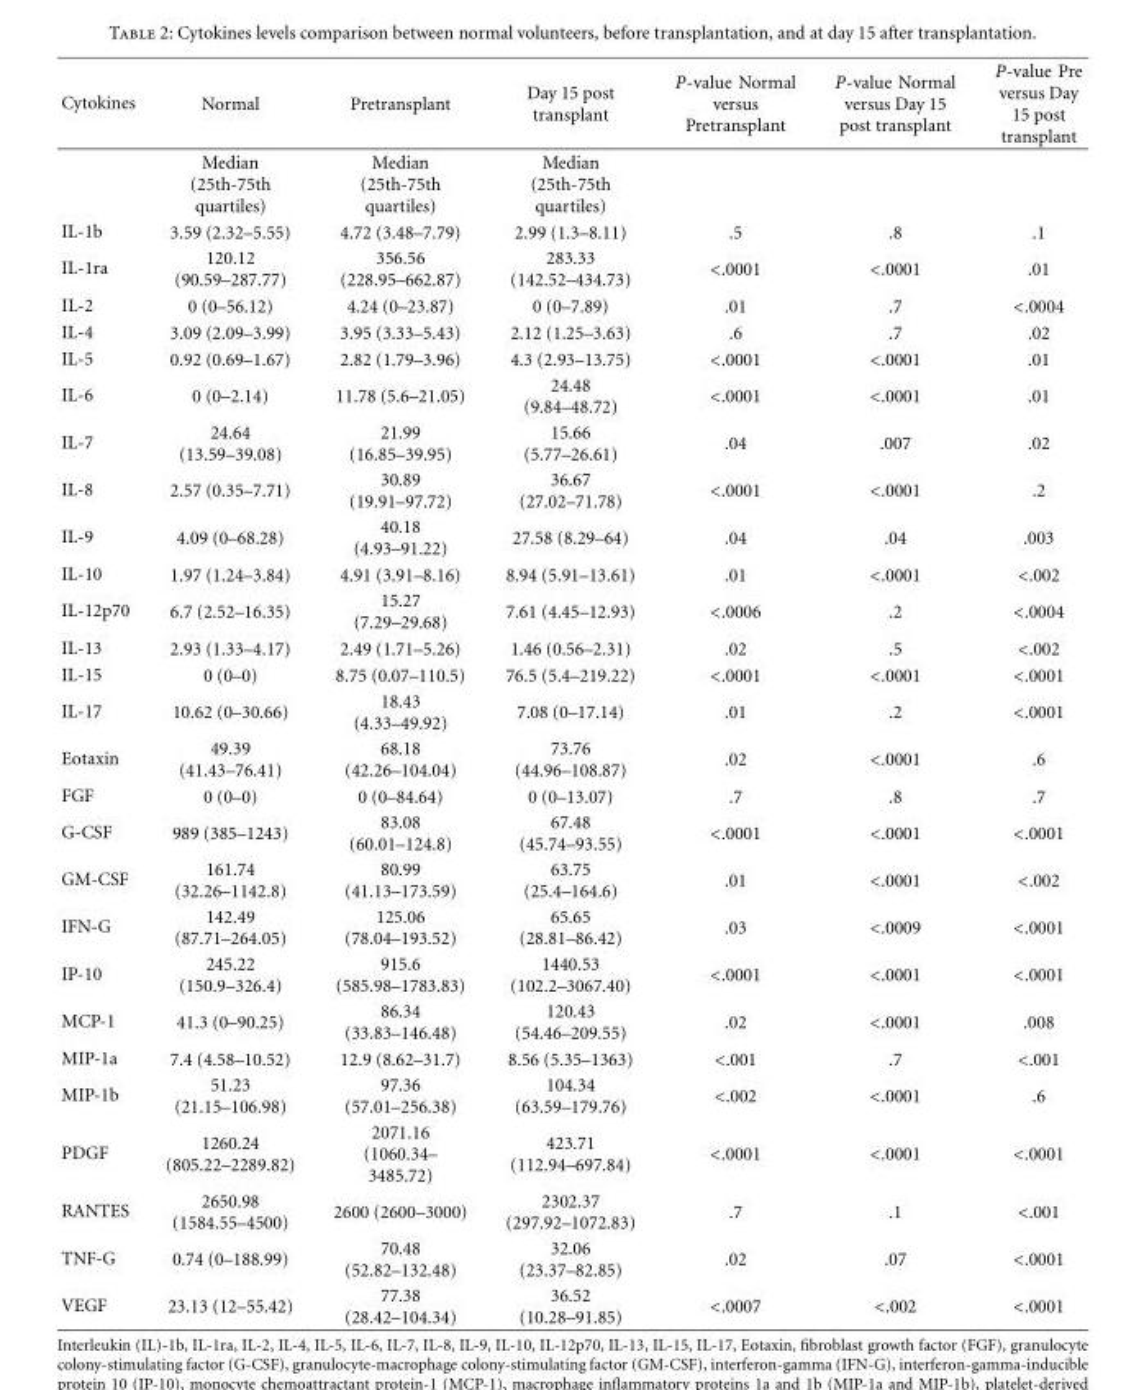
<table><thead><tr><td>Cytokines</td><td>Normal</td><td>Pretransplant</td><td>Day 15 post transplant</td><td>P-value Normal versus Pretransplant</td><td>P-value Normal versus Day 15 post transplant</td><td>P-value Pre versus Day 15 post transplant</td></tr></thead><tbody><tr><td></td><td>Median (25th-75th quartiles)</td><td>Median (25th-75th quartiles)</td><td>Median (25th-75th quartiles)</td><td></td><td></td><td></td></tr><tr><td>IL-1b</td><td>3.59 (2.32–5.55)</td><td>4.72 (3.48–7.79)</td><td>2.99 (1.3–8.11)</td><td>.5</td><td>.8</td><td>.1</td></tr><tr><td>IL-1ra</td><td>120.12 (90.59–287.77)</td><td>356.56 (228.95–662.87)</td><td>283.33 (142.52–434.73)</td><td>&lt;.0001</td><td>&lt;.0001</td><td>.01</td></tr><tr><td>IL-2</td><td>0 (0–56.12)</td><td>4.24 (0–23.87)</td><td>0 (0–7.89)</td><td>.01</td><td>.7</td><td>&lt;.0004</td></tr><tr><td>IL-4</td><td>3.09 (2.09–3.99)</td><td>3.95 (3.33–5.43)</td><td>2.12 (1.25–3.63)</td><td>.6</td><td>.7</td><td>.02</td></tr><tr><td>IL-5</td><td>0.92 (0.69–1.67)</td><td>2.82 (1.79–3.96)</td><td>4.3 (2.93–13.75)</td><td>&lt;.0001</td><td>&lt;.0001</td><td>.01</td></tr><tr><td>IL-6</td><td>0 (0–2.14)</td><td>11.78 (5.6–21.05)</td><td>24.48 (9.84–48.72)</td><td>&lt;.0001</td><td>&lt;.0001</td><td>.01</td></tr><tr><td>IL-7</td><td>24.64 (13.59–39.08)</td><td>21.99 (16.85–39.95)</td><td>15.66 (5.77–26.61)</td><td>.04</td><td>.007</td><td>.02</td></tr><tr><td>IL-8</td><td>2.57 (0.35–7.71)</td><td>30.89 (19.91–97.72)</td><td>36.67 (27.02–71.78)</td><td>&lt;.0001</td><td>&lt;.0001</td><td>.2</td></tr><tr><td>IL-9</td><td>4.09 (0–68.28)</td><td>40.18 (4.93–91.22)</td><td>27.58 (8.29–64)</td><td>.04</td><td>.04</td><td>.003</td></tr><tr><td>IL-10</td><td>1.97 (1.24–3.84)</td><td>4.91 (3.91–8.16)</td><td>8.94 (5.91–13.61)</td><td>.01</td><td>&lt;.0001</td><td>&lt;.002</td></tr><tr><td>IL-12p70</td><td>6.7 (2.52–16.35)</td><td>15.27 (7.29–29.68)</td><td>7.61 (4.45–12.93)</td><td>&lt;.0006</td><td>.2</td><td>&lt;.0004</td></tr><tr><td>IL-13</td><td>2.93 (1.33–4.17)</td><td>2.49 (1.71–5.26)</td><td>1.46 (0.56–2.31)</td><td>.02</td><td>.5</td><td>&lt;.002</td></tr><tr><td>IL-15</td><td>0 (0–0)</td><td>8.75 (0.07–110.5)</td><td>76.5 (5.4–219.22)</td><td>&lt;.0001</td><td>&lt;.0001</td><td>&lt;.0001</td></tr><tr><td>IL-17</td><td>10.62 (0–30.66)</td><td>18.43 (4.33–49.92)</td><td>7.08 (0–17.14)</td><td>.01</td><td>.2</td><td>&lt;.0001</td></tr><tr><td>Eotaxin</td><td>49.39 (41.43–76.41)</td><td>68.18 (42.26–104.04)</td><td>73.76 (44.96–108.87)</td><td>.02</td><td>&lt;.0001</td><td>.6</td></tr><tr><td>FGF</td><td>0 (0–0)</td><td>0 (0–84.64)</td><td>0 (0–13.07)</td><td>.7</td><td>.8</td><td>.7</td></tr><tr><td>G-CSF</td><td>989 (385–1243)</td><td>83.08 (60.01–124.8)</td><td>67.48 (45.74–93.55)</td><td>&lt;.0001</td><td>&lt;.0001</td><td>&lt;.0001</td></tr><tr><td>GM-CSF</td><td>161.74 (32.26–1142.8)</td><td>80.99 (41.13–173.59)</td><td>63.75 (25.4–164.6)</td><td>.01</td><td>&lt;.0001</td><td>&lt;.002</td></tr><tr><td>IFN-G</td><td>142.49 (87.71–264.05)</td><td>125.06 (78.04–193.52)</td><td>65.65 (28.81–86.42)</td><td>.03</td><td>&lt;.0009</td><td>&lt;.0001</td></tr><tr><td>IP-10</td><td>245.22 (150.9–326.4)</td><td>915.6 (585.98–1783.83)</td><td>1440.53 (102.2–3067.40)</td><td>&lt;.0001</td><td>&lt;.0001</td><td>&lt;.0001</td></tr><tr><td>MCP-1</td><td>41.3 (0–90.25)</td><td>86.34 (33.83–146.48)</td><td>120.43 (54.46–209.55)</td><td>.02</td><td>&lt;.0001</td><td>.008</td></tr><tr><td>MIP-1a</td><td>7.4 (4.58–10.52)</td><td>12.9 (8.62–31.7)</td><td>8.56 (5.35–1363)</td><td>&lt;.001</td><td>.7</td><td>&lt;.001</td></tr><tr><td>MIP-1b</td><td>51.23 (21.15–106.98)</td><td>97.36 (57.01–256.38)</td><td>104.34 (63.59–179.76)</td><td>&lt;.002</td><td>&lt;.0001</td><td>.6</td></tr><tr><td>PDGF</td><td>1260.24 (805.22–2289.82)</td><td>2071.16 (1060.34– 3485.72)</td><td>423.71 (112.94–697.84)</td><td>&lt;.0001</td><td>&lt;.0001</td><td>&lt;.0001</td></tr><tr><td>RANTES</td><td>2650.98 (1584.55–4500)</td><td>2600 (2600–3000)</td><td>2302.37 (297.92–1072.83)</td><td>.7</td><td>.1</td><td>&lt;.001</td></tr><tr><td>TNF-G</td><td>0.74 (0–188.99)</td><td>70.48 (52.82–132.48)</td><td>32.06 (23.37–82.85)</td><td>.02</td><td>.07</td><td>&lt;.0001</td></tr><tr><td>VEGF</td><td>23.13 (12–55.42)</td><td>77.38 (28.42–104.34)</td><td>36.52 (10.28–91.85)</td><td>&lt;.0007</td><td>&lt;.002</td><td>&lt;.0001</td></tr></tbody></table>